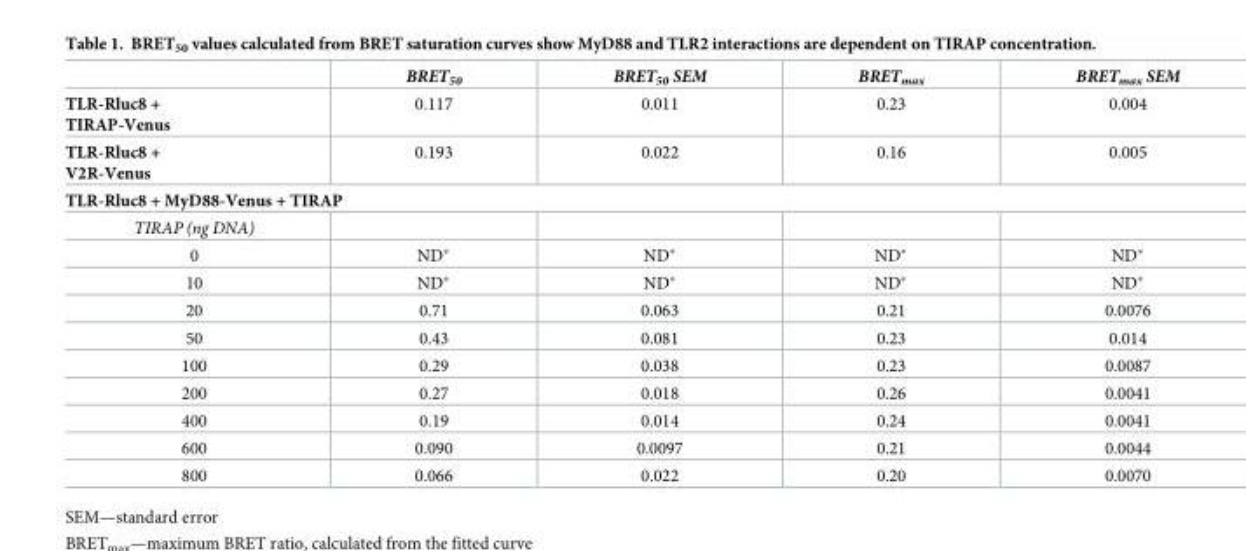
<table><thead><tr><td></td><td>BRET<sub>50</sub></td><td>BRET<sub>50</sub> SEM</td><td>BRET<sub>max</sub></td><td>BRET<sub>max</sub> SEM</td></tr></thead><tbody><tr><td>TLR-Rluc8 + TIRAP-Venus</td><td>0.117</td><td>0.011</td><td>0.23</td><td>0.004</td></tr><tr><td>TLR-Rluc8 + V2R-Venus</td><td>0.193</td><td>0.022</td><td>0.16</td><td>0.005</td></tr><tr><td colspan="5">TLR-Rluc8 + MyD88-Venus + TIRAP</td></tr><tr><td colspan="5">TIRAP (ng DNA)</td></tr><tr><td>0</td><td>ND*</td><td>ND*</td><td>ND*</td><td>ND*</td></tr><tr><td>10</td><td>ND*</td><td>ND*</td><td>ND*</td><td>ND*</td></tr><tr><td>20</td><td>0.71</td><td>0.063</td><td>0.21</td><td>0.0076</td></tr><tr><td>50</td><td>0.43</td><td>0.081</td><td>0.23</td><td>0.014</td></tr><tr><td>100</td><td>0.29</td><td>0.038</td><td>0.23</td><td>0.0087</td></tr><tr><td>200</td><td>0.27</td><td>0.018</td><td>0.26</td><td>0.0041</td></tr><tr><td>400</td><td>0.19</td><td>0.014</td><td>0.24</td><td>0.0041</td></tr><tr><td>600</td><td>0.090</td><td>0.0097</td><td>0.21</td><td>0.0044</td></tr><tr><td>800</td><td>0.066</td><td>0.022</td><td>0.20</td><td>0.0070</td></tr></tbody></table>